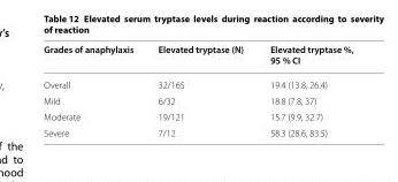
<table><thead><tr><td>Grades of anaphylaxis</td><td>Elevated tryptase (N)</td><td>Elevated tryptase %, 95 % CI</td></tr></thead><tbody><tr><td>Overall</td><td>32/165</td><td>19.4 (13.8, 26.4)</td></tr><tr><td>Mild</td><td>6/32</td><td>18.8 (7.8, 37)</td></tr><tr><td>Moderate</td><td>19/121</td><td>15.7 (9.9, 32.7)</td></tr><tr><td>Severe</td><td>7/12</td><td>58.3 (28.6, 83.5)</td></tr></tbody></table>